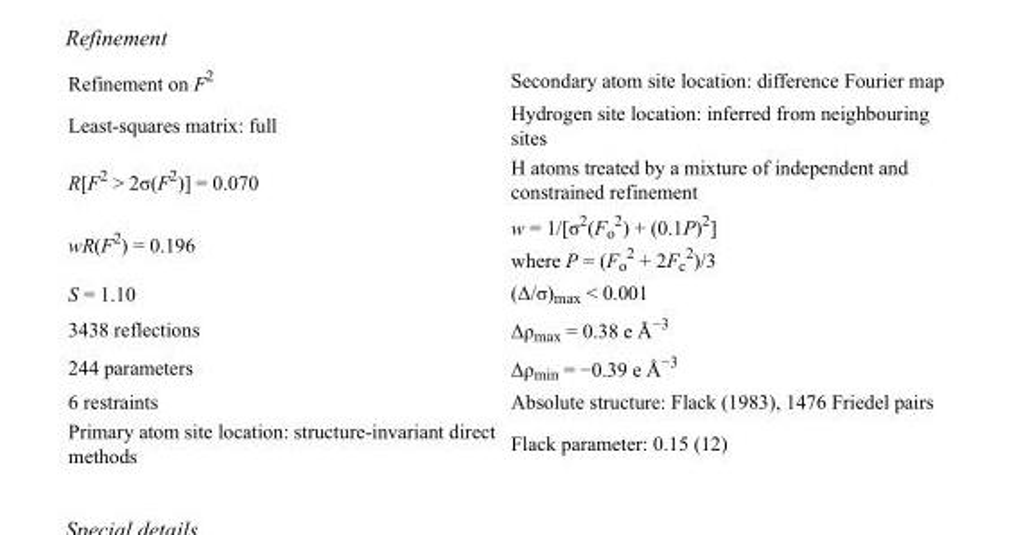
<table><tbody><tr><td>Refinement on F<sup>2</sup></td><td>Secondary atom site location: difference Fourier map</td></tr><tr><td>Least-squares matrix: full</td><td>Hydrogen site location: inferred from neighbouring sites</td></tr><tr><td>R[F<sup>2</sup> &gt; 2σ(F<sup>2</sup>)] = 0.070</td><td>H atoms treated by a mixture of independent and constrained refinement</td></tr><tr><td>wR(F<sup>2</sup>) = 0.196</td><td>w = 1/[σ<sup>2</sup>(F<sub>o</sub> <sup>2</sup>) + (0.1P)<sup>2</sup>] where P = (F<sub>o</sub> <sup>2</sup> + 2F<sub>c</sub> <sup>2</sup>)/3</td></tr><tr><td>S = 1.10</td><td>(Δ/σ)<sub>max</sub> &lt; 0.001</td></tr><tr><td>3438 reflections</td><td>Δρ<sub>max</sub> = 0.38 e Å<sup>−3</sup></td></tr><tr><td>244 parameters</td><td>Δρ<sub>min</sub> = −0.39 e Å<sup>−3</sup></td></tr><tr><td>6 restraints</td><td>Absolute structure: Flack (1983), 1476 Friedel pairs</td></tr><tr><td>Primary atom site location: structure-invariant direct methods</td><td>Flack parameter: 0.15 (12)</td></tr></tbody></table>